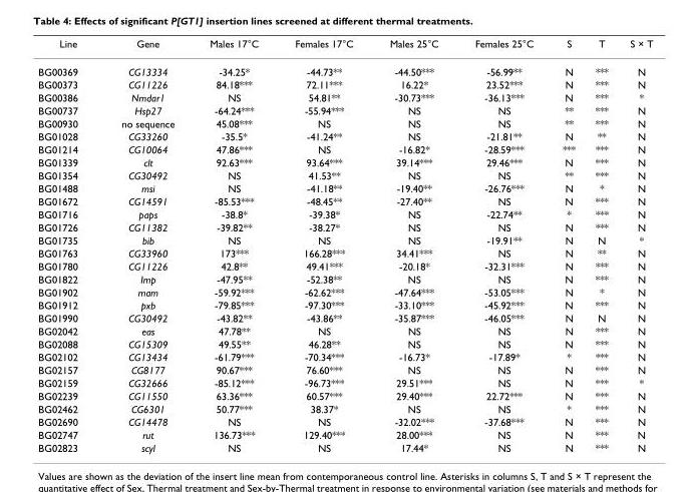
<table><thead><tr><td>Line</td><td>Gene</td><td>Males 17°C</td><td>Females 17°C</td><td>Males 25°C</td><td>Females 25°C</td><td>S</td><td>T</td><td>S × T</td></tr></thead><tbody><tr><td>BG00369</td><td>CG13334</td><td>-34.25*</td><td>-44.73**</td><td>-44.50***</td><td>-56.99**</td><td>N</td><td>***</td><td>N</td></tr><tr><td>BG00373</td><td>CG11226</td><td>84.18***</td><td>72.11***</td><td>16.22*</td><td>23.52***</td><td>N</td><td>***</td><td>N</td></tr><tr><td>BG00386</td><td>Nmdar1</td><td>NS</td><td>54.81**</td><td>-30.73***</td><td>-36.13***</td><td>N</td><td>***</td><td>*</td></tr><tr><td>BG00737</td><td>Hsp27</td><td>-64.24***</td><td>-55.94***</td><td>NS</td><td>NS</td><td>**</td><td>***</td><td>N</td></tr><tr><td>BG00930</td><td>no sequence</td><td>45.08***</td><td>NS</td><td>NS</td><td>NS</td><td>**</td><td>***</td><td>N</td></tr><tr><td>BG01028</td><td>CG33260</td><td>-35.5*</td><td>-41.24**</td><td>NS</td><td>-21.81**</td><td>N</td><td>**</td><td>N</td></tr><tr><td>BG01214</td><td>CG10064</td><td>47.86***</td><td>NS</td><td>-16.82*</td><td>-28.59***</td><td>***</td><td>***</td><td>N</td></tr><tr><td>BG01339</td><td>clt</td><td>92.63***</td><td>93.64***</td><td>39.14***</td><td>29.46***</td><td>N</td><td>***</td><td>N</td></tr><tr><td>BG01354</td><td>CG30492</td><td>NS</td><td>41.53**</td><td>NS</td><td>NS</td><td>**</td><td>***</td><td>N</td></tr><tr><td>BG01488</td><td>msi</td><td>NS</td><td>-41.18**</td><td>-19.40**</td><td>-26.76***</td><td>N</td><td>*</td><td>N</td></tr><tr><td>BG01672</td><td>CG14591</td><td>-85.53***</td><td>-48.45**</td><td>-27.40**</td><td>NS</td><td>N</td><td>***</td><td>N</td></tr><tr><td>BG01716</td><td>paps</td><td>-38.8*</td><td>-39.38*</td><td>NS</td><td>-22.74**</td><td>*</td><td>***</td><td>N</td></tr><tr><td>BG01726</td><td>CG11382</td><td>-39.82**</td><td>-38.27*</td><td>NS</td><td>NS</td><td>N</td><td>***</td><td>N</td></tr><tr><td>BG01735</td><td>bib</td><td>NS</td><td>NS</td><td>NS</td><td>-19.91**</td><td>N</td><td>N</td><td>*</td></tr><tr><td>BG01763</td><td>CG33960</td><td>173***</td><td>166.28***</td><td>34.41***</td><td>NS</td><td>N</td><td>**</td><td>N</td></tr><tr><td>BG01780</td><td>CG11226</td><td>42.8**</td><td>49.41***</td><td>-20.18*</td><td>-32.31***</td><td>N</td><td>***</td><td>N</td></tr><tr><td>BG01822</td><td>Imp</td><td>-47.95**</td><td>-52.38**</td><td>NS</td><td>NS</td><td>N</td><td>***</td><td>N</td></tr><tr><td>BG01902</td><td>mam</td><td>-59.92***</td><td>-62.62***</td><td>-47.64***</td><td>-53.05***</td><td>N</td><td>*</td><td>N</td></tr><tr><td>BG01912</td><td>pxb</td><td>-79.85***</td><td>-97.30***</td><td>-33.10***</td><td>-45.92***</td><td>N</td><td>***</td><td>N</td></tr><tr><td>BG01990</td><td>CG30492</td><td>-43.82**</td><td>-43.86**</td><td>-35.87***</td><td>-46.05***</td><td>N</td><td>N</td><td>N</td></tr><tr><td>BG02042</td><td>eas</td><td>47.78**</td><td>NS</td><td>NS</td><td>NS</td><td>N</td><td>***</td><td>N</td></tr><tr><td>BG02088</td><td>CG15309</td><td>49.55**</td><td>46.28**</td><td>NS</td><td>NS</td><td>N</td><td>***</td><td>N</td></tr><tr><td>BG02102</td><td>CG13434</td><td>-61.79***</td><td>-70.34***</td><td>-16.73*</td><td>-17.89*</td><td>*</td><td>***</td><td>N</td></tr><tr><td>BG02157</td><td>CG8177</td><td>90.67***</td><td>76.60***</td><td>NS</td><td>NS</td><td>N</td><td>***</td><td>N</td></tr><tr><td>BG02159</td><td>CG32666</td><td>-85.12***</td><td>-96.73***</td><td>29.51***</td><td>NS</td><td>N</td><td>***</td><td>*</td></tr><tr><td>BG02239</td><td>CG11550</td><td>63.36***</td><td>60.57***</td><td>29.40***</td><td>22.72***</td><td>N</td><td>***</td><td>N</td></tr><tr><td>BG02462</td><td>CG6301</td><td>50.77***</td><td>38.37*</td><td>NS</td><td>NS</td><td>*</td><td>***</td><td>N</td></tr><tr><td>BG02690</td><td>CG14478</td><td>NS</td><td>NS</td><td>-32.02***</td><td>-37.68***</td><td>N</td><td>***</td><td>N</td></tr><tr><td>BG02747</td><td>rut</td><td>136.73***</td><td>129.40***</td><td>28.00***</td><td>NS</td><td>N</td><td>***</td><td>N</td></tr><tr><td>BG02823</td><td>scyl</td><td>NS</td><td>NS</td><td>17.44*</td><td>NS</td><td>N</td><td>***</td><td>N</td></tr></tbody></table>